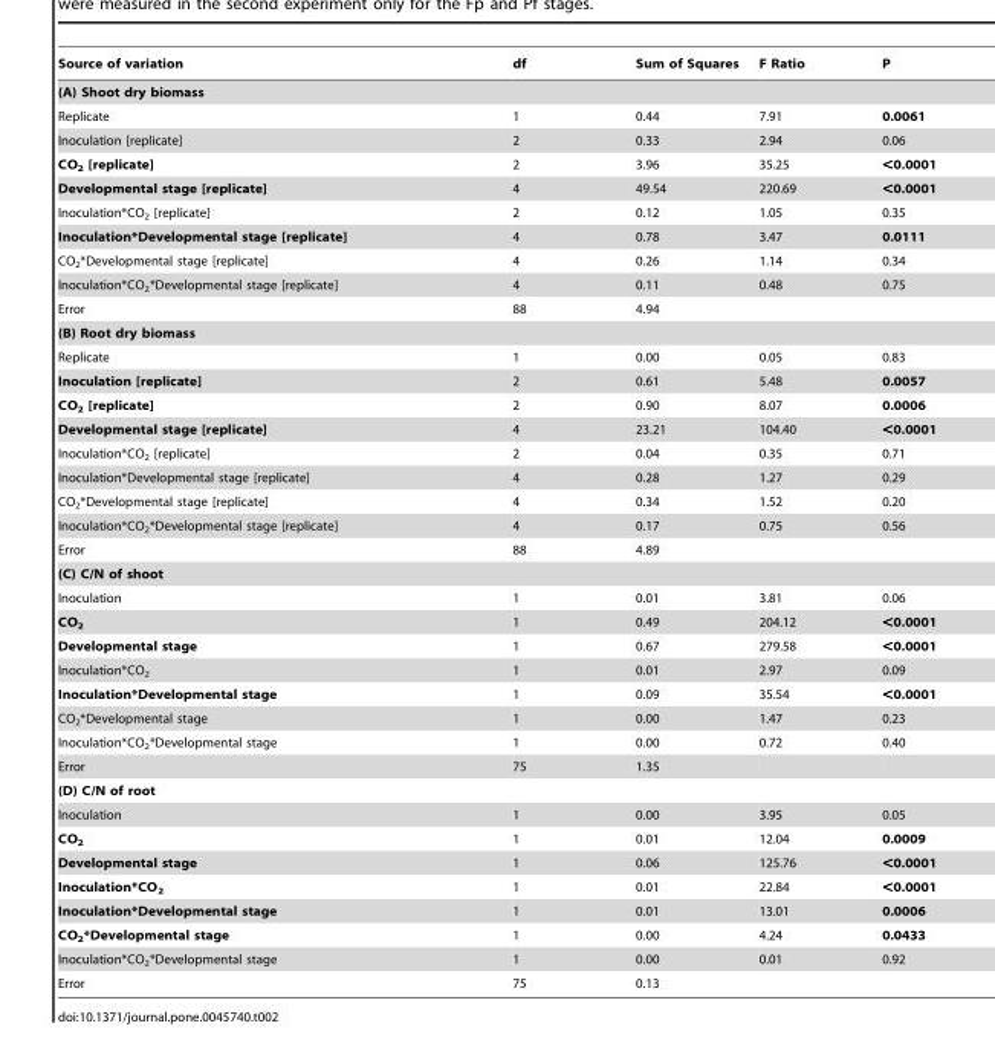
<table><thead><tr><td>Source of variation</td><td>df</td><td>Sum of Squares</td><td>F Ratio</td><td>P</td></tr></thead><tbody><tr><td colspan="5">(A) Shoot dry biomass</td></tr><tr><td>Replicate</td><td>1</td><td>0.44</td><td>7.91</td><td>0.0061</td></tr><tr><td>Inoculation [replicate]</td><td>2</td><td>0.33</td><td>2.94</td><td>0.06</td></tr><tr><td>CO<sub>2</sub> [replicate]</td><td>2</td><td>3.96</td><td>35.25</td><td>&lt;0.0001</td></tr><tr><td>Developmental stage [replicate]</td><td>4</td><td>49.54</td><td>220.69</td><td>&lt;0.0001</td></tr><tr><td>Inoculation*CO<sub>2</sub> [replicate]</td><td>2</td><td>0.12</td><td>1.05</td><td>0.35</td></tr><tr><td>Inoculation*Developmental stage [replicate]</td><td>4</td><td>0.78</td><td>3.47</td><td>0.0111</td></tr><tr><td>CO<sub>2</sub>*Developmental stage [replicate]</td><td>4</td><td>0.26</td><td>1.14</td><td>0.34</td></tr><tr><td>Inoculation*CO<sub>2</sub>*Developmental stage [replicate]</td><td>4</td><td>0.11</td><td>0.48</td><td>0.75</td></tr><tr><td>Error</td><td>88</td><td>4.94</td><td></td><td></td></tr><tr><td colspan="5">(B) Root dry biomass</td></tr><tr><td>Replicate</td><td>1</td><td>0.00</td><td>0.05</td><td>0.83</td></tr><tr><td>Inoculation [replicate]</td><td>2</td><td>0.61</td><td>5.48</td><td>0.0057</td></tr><tr><td>CO<sub>2</sub> [replicate]</td><td>2</td><td>0.90</td><td>8.07</td><td>0.0006</td></tr><tr><td>Developmental stage [replicate]</td><td>4</td><td>23.21</td><td>104.40</td><td>&lt;0.0001</td></tr><tr><td>Inoculation*CO<sub>2</sub> [replicate]</td><td>2</td><td>0.04</td><td>0.35</td><td>0.71</td></tr><tr><td>Inoculation*Developmental stage [replicate]</td><td>4</td><td>0.28</td><td>1.27</td><td>0.29</td></tr><tr><td>CO<sub>2</sub>*Developmental stage [replicate]</td><td>4</td><td>0.34</td><td>1.52</td><td>0.20</td></tr><tr><td>Inoculation*CO<sub>2</sub>*Developmental stage [replicate]</td><td>4</td><td>0.17</td><td>0.75</td><td>0.56</td></tr><tr><td>Error</td><td>88</td><td>4.89</td><td></td><td></td></tr><tr><td colspan="5">(C) C/N of shoot</td></tr><tr><td>Inoculation</td><td>1</td><td>0.01</td><td>3.81</td><td>0.06</td></tr><tr><td>CO<sub>2</sub></td><td>1</td><td>0.49</td><td>204.12</td><td>&lt;0.0001</td></tr><tr><td>Developmental stage</td><td>1</td><td>0.67</td><td>279.58</td><td>&lt;0.0001</td></tr><tr><td>Inoculation*CO<sub>2</sub></td><td>1</td><td>0.01</td><td>2.97</td><td>0.09</td></tr><tr><td>Inoculation*Developmental stage</td><td>1</td><td>0.09</td><td>35.54</td><td>&lt;0.0001</td></tr><tr><td>CO<sub>2</sub>*Developmental stage</td><td>1</td><td>0.00</td><td>1.47</td><td>0.23</td></tr><tr><td>Inoculation*CO<sub>2</sub>*Developmental stage</td><td>1</td><td>0.00</td><td>0.72</td><td>0.40</td></tr><tr><td>Error</td><td>75</td><td>1.35</td><td></td><td></td></tr><tr><td colspan="5">(D) C/N of root</td></tr><tr><td>Inoculation</td><td>1</td><td>0.00</td><td>3.95</td><td>0.05</td></tr><tr><td>CO<sub>2</sub></td><td>1</td><td>0.01</td><td>12.04</td><td>0.0009</td></tr><tr><td>Developmental stage</td><td>1</td><td>0.06</td><td>125.76</td><td>&lt;0.0001</td></tr><tr><td>Inoculation*CO<sub>2</sub></td><td>1</td><td>0.01</td><td>22.84</td><td>&lt;0.0001</td></tr><tr><td>Inoculation*Developmental stage</td><td>1</td><td>0.01</td><td>13.01</td><td>0.0006</td></tr><tr><td>CO<sub>2</sub>*Developmental stage</td><td>1</td><td>0.00</td><td>4.24</td><td>0.0433</td></tr><tr><td>Inoculation*CO<sub>2</sub>*Developmental stage</td><td>1</td><td>0.00</td><td>0.01</td><td>0.92</td></tr><tr><td>Error</td><td>75</td><td>0.13</td><td></td><td></td></tr></tbody></table>